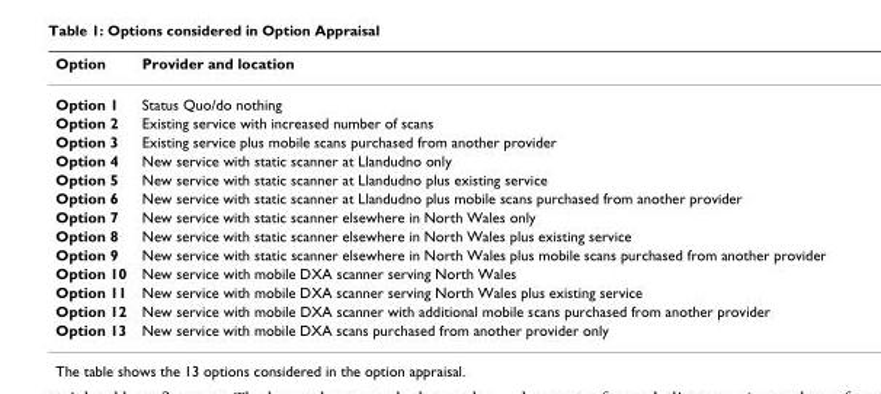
<table><thead><tr><td>Option</td><td>Provider and location</td></tr></thead><tbody><tr><td>Option 1</td><td>Status Quo/do nothing</td></tr><tr><td>Option 2</td><td>Existing service with increased number of scans</td></tr><tr><td>Option 3</td><td>Existing service plus mobile scans purchased from another provider</td></tr><tr><td>Option 4</td><td>New service with static scanner at Llandudno only</td></tr><tr><td>Option 5</td><td>New service with static scanner at Llandudno plus existing service</td></tr><tr><td>Option 6</td><td>New service with static scanner at Llandudno plus mobile scans purchased from another provider</td></tr><tr><td>Option 7</td><td>New service with static scanner elsewhere in North Wales only</td></tr><tr><td>Option 8</td><td>New service with static scanner elsewhere in North Wales plus existing service</td></tr><tr><td>Option 9</td><td>New service with static scanner elsewhere in North Wales plus mobile scans purchased from another provider</td></tr><tr><td>Option 10</td><td>New service with mobile DXA scanner serving North Wales</td></tr><tr><td>Option 11</td><td>New service with mobile DXA scanner serving North Wales plus existing service</td></tr><tr><td>Option 12</td><td>New service with mobile DXA scanner with additional mobile scans purchased from another provider</td></tr><tr><td>Option 13</td><td>New service with mobile DXA scans purchased from another provider only</td></tr></tbody></table>